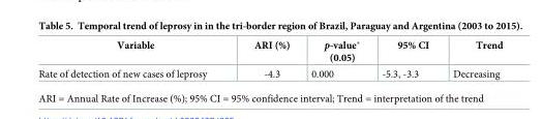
<table><thead><tr><td>Variable</td><td>ARI (%)</td><td>p-value* (0.05)</td><td>95% CI</td><td>Trend</td></tr></thead><tbody><tr><td>Rate of detection of new cases of leprosy</td><td>-4.3</td><td>0.000</td><td>-5.3, -3.3</td><td>Decreasing</td></tr></tbody></table>